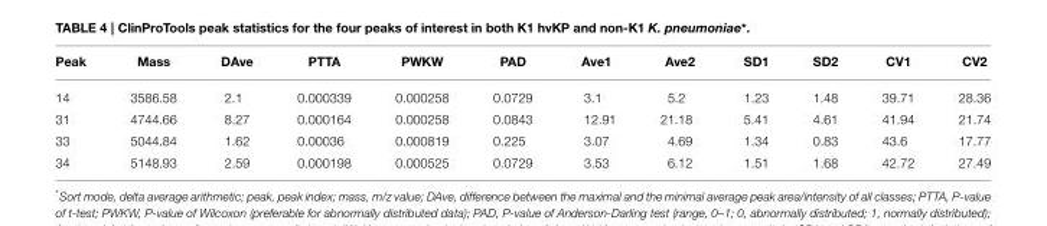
<table><thead><tr><td>Peak</td><td>Mass</td><td>DAve</td><td>PTTA</td><td>PWKW</td><td>PAD</td><td>Ave1</td><td>Ave2</td><td>SD1</td><td>SD2</td><td>CV1</td><td>CV2</td></tr></thead><tbody><tr><td>14</td><td>3586.58</td><td>2.1</td><td>0.000339</td><td>0.000258</td><td>0.0729</td><td>3.1</td><td>5.2</td><td>1.23</td><td>1.48</td><td>39.71</td><td>28.36</td></tr><tr><td>31</td><td>4744.66</td><td>8.27</td><td>0.000164</td><td>0.000258</td><td>0.0843</td><td>12.91</td><td>21.18</td><td>5.41</td><td>4.61</td><td>41.94</td><td>21.74</td></tr><tr><td>33</td><td>5044.84</td><td>1.62</td><td>0.00036</td><td>0.000819</td><td>0.225</td><td>3.07</td><td>4.69</td><td>1.34</td><td>0.83</td><td>43.6</td><td>17.77</td></tr><tr><td>34</td><td>5148.93</td><td>2.59</td><td>0.000198</td><td>0.000525</td><td>0.0729</td><td>3.53</td><td>6.12</td><td>1.51</td><td>1.68</td><td>42.72</td><td>27.49</td></tr></tbody></table>